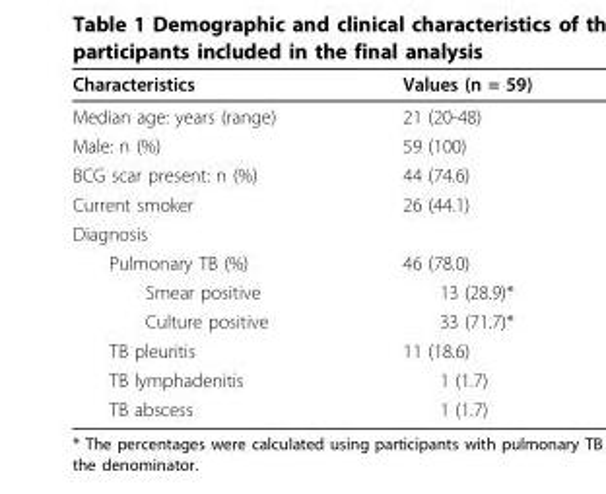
<table><thead><tr><td>Characteristics</td><td>Values (n = 59)</td></tr></thead><tbody><tr><td>Median age: years (range)</td><td>21 (20-48)</td></tr><tr><td>Male: n (%)</td><td>59 (100)</td></tr><tr><td>BCG scar present: n (%)</td><td>44 (74.6)</td></tr><tr><td>Current smoker</td><td>26 (44.1)</td></tr><tr><td colspan="2">Diagnosis</td></tr><tr><td>Pulmonary TB (%)</td><td>46 (78.0)</td></tr><tr><td>Smear positive</td><td>13 (28.9)*</td></tr><tr><td>Culture positive</td><td>33 (71.7)*</td></tr><tr><td>TB pleuritis</td><td>11 (18.6)</td></tr><tr><td>TB lymphadenitis</td><td>1 (1.7)</td></tr><tr><td>TB abscess</td><td>1 (1.7)</td></tr></tbody></table>